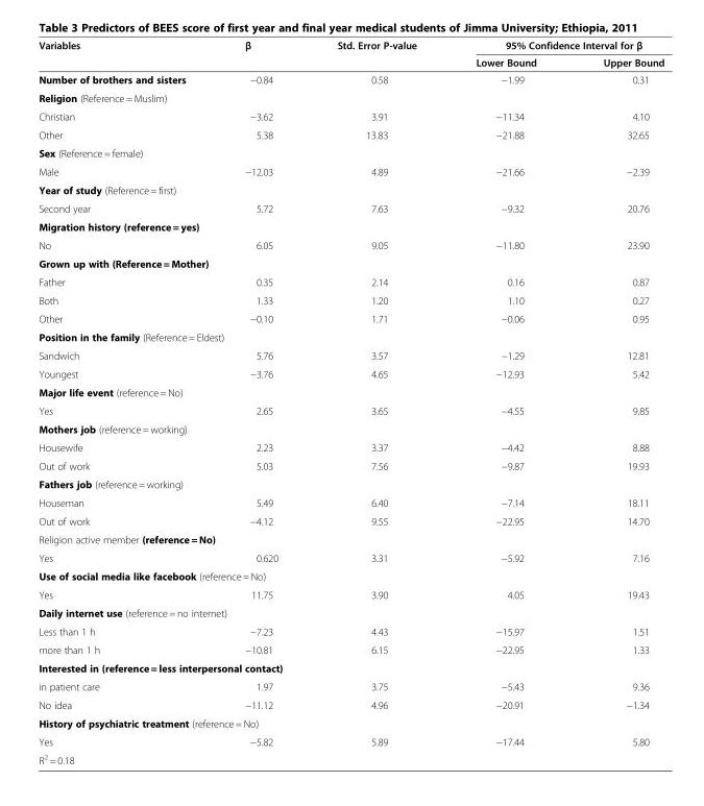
<table><thead><tr><td rowspan="2">Variables</td><td rowspan="2">β</td><td rowspan="2">Std. Error P-value</td><td colspan="2">95% Confidence Interval for β</td></tr><tr><td>Lower Bound</td><td>Upper Bound</td></tr></thead><tbody><tr><td>Number of brothers and sisters</td><td>−0.84</td><td>0.58</td><td>−1.99</td><td>0.31</td></tr><tr><td colspan="5">Religion (Reference = Muslim)</td></tr><tr><td>Christian</td><td>−3.62</td><td>3.91</td><td>−11.34</td><td>4.10</td></tr><tr><td>Other</td><td>5.38</td><td>13.83</td><td>−21.88</td><td>32.65</td></tr><tr><td colspan="5">Sex (Reference = female)</td></tr><tr><td>Male</td><td>−12.03</td><td>4.89</td><td>−21.66</td><td>−2.39</td></tr><tr><td colspan="5">Year of study (Reference = first)</td></tr><tr><td>Second year</td><td>5.72</td><td>7.63</td><td>−9.32</td><td>20.76</td></tr><tr><td colspan="5">Migration history (reference = yes)</td></tr><tr><td>No</td><td>6.05</td><td>9.05</td><td>−11.80</td><td>23.90</td></tr><tr><td colspan="5">Grown up with (Reference = Mother)</td></tr><tr><td>Father</td><td>0.35</td><td>2.14</td><td>0.16</td><td>0.87</td></tr><tr><td>Both</td><td>1.33</td><td>1.20</td><td>1.10</td><td>0.27</td></tr><tr><td>Other</td><td>−0.10</td><td>1.71</td><td>−0.06</td><td>0.95</td></tr><tr><td colspan="5">Position in the family (Reference = Eldest)</td></tr><tr><td>Sandwich</td><td>5.76</td><td>3.57</td><td>−1.29</td><td>12.81</td></tr><tr><td>Youngest</td><td>−3.76</td><td>4.65</td><td>−12.93</td><td>5.42</td></tr><tr><td colspan="5">Major life event (reference = No)</td></tr><tr><td>Yes</td><td>2.65</td><td>3.65</td><td>−4.55</td><td>9.85</td></tr><tr><td colspan="5">Mothers job (reference = working)</td></tr><tr><td>Housewife</td><td>2.23</td><td>3.37</td><td>−4.42</td><td>8.88</td></tr><tr><td>Out of work</td><td>5.03</td><td>7.56</td><td>−9.87</td><td>19.93</td></tr><tr><td colspan="5">Fathers job (reference = working)</td></tr><tr><td>Houseman</td><td>5.49</td><td>6.40</td><td>−7.14</td><td>18.11</td></tr><tr><td>Out of work</td><td>−4.12</td><td>9.55</td><td>−22.95</td><td>14.70</td></tr><tr><td colspan="5">Religion active member (reference = No)</td></tr><tr><td>Yes</td><td>0.620</td><td>3.31</td><td>−5.92</td><td>7.16</td></tr><tr><td colspan="5">Use of social media like facebook (reference = No)</td></tr><tr><td>Yes</td><td>11.75</td><td>3.90</td><td>4.05</td><td>19.43</td></tr><tr><td colspan="5">Daily internet use (reference = no internet)</td></tr><tr><td>Less than 1 h</td><td>−7.23</td><td>4.43</td><td>−15.97</td><td>1.51</td></tr><tr><td>more than 1 h</td><td>−10.81</td><td>6.15</td><td>−22.95</td><td>1.33</td></tr><tr><td colspan="5">Interested in (reference = less interpersonal contact)</td></tr><tr><td>in patient care</td><td>1.97</td><td>3.75</td><td>−5.43</td><td>9.36</td></tr><tr><td>No idea</td><td>−11.12</td><td>4.96</td><td>−20.91</td><td>−1.34</td></tr><tr><td colspan="5">History of psychiatric treatment (reference = No)</td></tr><tr><td>Yes</td><td>−5.82</td><td>5.89</td><td>−17.44</td><td>5.80</td></tr><tr><td colspan="5">R<sup>2</sup> = 0.18</td></tr></tbody></table>